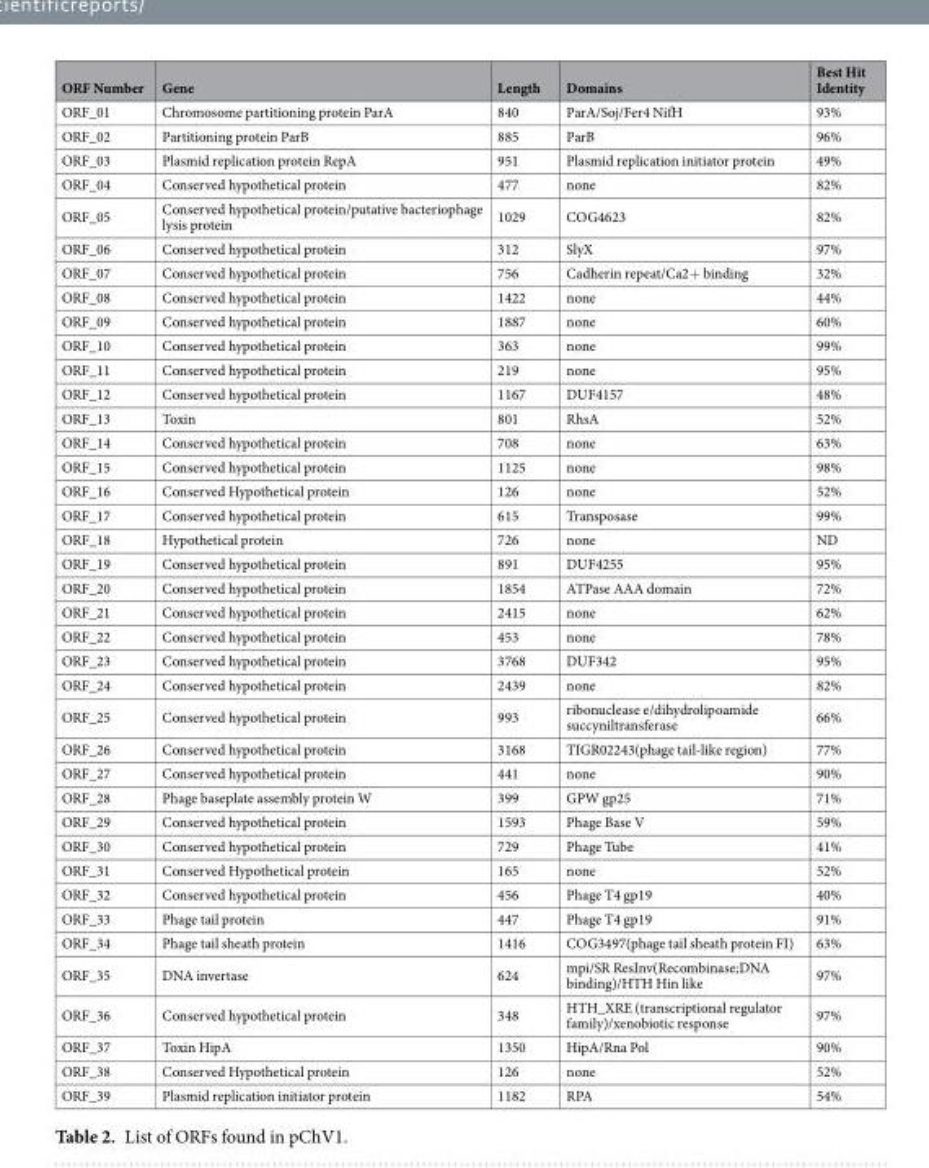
<table><thead><tr><td>ORF Number</td><td>Gene</td><td>Length</td><td>Domains</td><td>Best Hit Identity</td></tr></thead><tbody><tr><td>ORF_01</td><td>Chromosome partitioning protein ParA</td><td>840</td><td>ParA/Soj/Fer4 NifH</td><td>93%</td></tr><tr><td>ORF_02</td><td>Partitioning protein ParB</td><td>885</td><td>ParB</td><td>96%</td></tr><tr><td>ORF_03</td><td>Plasmid replication protein RepA</td><td>951</td><td>Plasmid replication initiator protein</td><td>49%</td></tr><tr><td>ORF_04</td><td>Conserved hypothetical protein</td><td>477</td><td>none</td><td>82%</td></tr><tr><td>ORF_05</td><td>Conserved hypothetical protein/putative bacteriophage lysis protein</td><td>1029</td><td>COG4623</td><td>82%</td></tr><tr><td>ORF_06</td><td>Conserved hypothetical protein</td><td>312</td><td>SlyX</td><td>97%</td></tr><tr><td>ORF_07</td><td>Conserved hypothetical protein</td><td>756</td><td>Cadherin repeat/Ca2+ binding</td><td>32%</td></tr><tr><td>ORF_08</td><td>Conserved hypothetical protein</td><td>1422</td><td>none</td><td>44%</td></tr><tr><td>ORF_09</td><td>Conserved hypothetical protein</td><td>1887</td><td>none</td><td>60%</td></tr><tr><td>ORF_10</td><td>Conserved hypothetical protein</td><td>363</td><td>none</td><td>99%</td></tr><tr><td>ORF_11</td><td>Conserved hypothetical protein</td><td>219</td><td>none</td><td>95%</td></tr><tr><td>ORF_12</td><td>Conserved hypothetical protein</td><td>1167</td><td>DUF4157</td><td>48%</td></tr><tr><td>ORF_13</td><td>Toxin</td><td>801</td><td>RhsA</td><td>52%</td></tr><tr><td>ORF_14</td><td>Conserved hypothetical protein</td><td>708</td><td>none</td><td>63%</td></tr><tr><td>ORF_15</td><td>Conserved hypothetical protein</td><td>1125</td><td>none</td><td>98%</td></tr><tr><td>ORF_16</td><td>Conserved Hypothetical protein</td><td>126</td><td>none</td><td>52%</td></tr><tr><td>ORF_17</td><td>Conserved hypothetical protein</td><td>615</td><td>Transposase</td><td>99%</td></tr><tr><td>ORF_18</td><td>Hypothetical protein</td><td>726</td><td>none</td><td>ND</td></tr><tr><td>ORF_19</td><td>Conserved hypothetical protein</td><td>891</td><td>DUF4255</td><td>95%</td></tr><tr><td>ORF_20</td><td>Conserved hypothetical protein</td><td>1854</td><td>ATPase AAA domain</td><td>72%</td></tr><tr><td>ORF_21</td><td>Conserved hypothetical protein</td><td>2415</td><td>none</td><td>62%</td></tr><tr><td>ORF_22</td><td>Conserved hypothetical protein</td><td>453</td><td>none</td><td>78%</td></tr><tr><td>ORF_23</td><td>Conserved hypothetical protein</td><td>3768</td><td>DUF342</td><td>95%</td></tr><tr><td>ORF_24</td><td>Conserved hypothetical protein</td><td>2439</td><td>none</td><td>82%</td></tr><tr><td>ORF_25</td><td>Conserved hypothetical protein</td><td>993</td><td>ribonuclease e/dihydrolipoamide succyniltransferase</td><td>66%</td></tr><tr><td>ORF_26</td><td>Conserved hypothetical protein</td><td>3168</td><td>TIGR02243(phage tail-like region)</td><td>77%</td></tr><tr><td>ORF_27</td><td>Conserved hypothetical protein</td><td>441</td><td>none</td><td>90%</td></tr><tr><td>ORF_28</td><td>Phage baseplate assembly protein W</td><td>399</td><td>GPW gp25</td><td>71%</td></tr><tr><td>ORF_29</td><td>Conserved hypothetical protein</td><td>1593</td><td>Phage Base V</td><td>59%</td></tr><tr><td>ORF_30</td><td>Conserved hypothetical protein</td><td>729</td><td>Phage Tube</td><td>41%</td></tr><tr><td>ORF_31</td><td>Conserved Hypothetical protein</td><td>165</td><td>none</td><td>52%</td></tr><tr><td>ORF_32</td><td>Conserved hypothetical protein</td><td>456</td><td>Phage T4 gp19</td><td>40%</td></tr><tr><td>ORF_33</td><td>Phage tail protein</td><td>447</td><td>Phage T4 gp19</td><td>91%</td></tr><tr><td>ORF_34</td><td>Phage tail sheath protein</td><td>1416</td><td>COG3497(phage tail sheath protein FI)</td><td>63%</td></tr><tr><td>ORF_35</td><td>DNA invertase</td><td>624</td><td>mpi/SR ResInv(Recombinase;DNA binding)/HTH Hin like</td><td>97%</td></tr><tr><td>ORF_36</td><td>Conserved hypothetical protein</td><td>348</td><td>HTH_XRE (transcriptional regulator family)/xenobiotic response</td><td>97%</td></tr><tr><td>ORF_37</td><td>Toxin HipA</td><td>1350</td><td>HipA/Rna Pol</td><td>90%</td></tr><tr><td>ORF_38</td><td>Conserved Hypothetical protein</td><td>126</td><td>none</td><td>52%</td></tr><tr><td>ORF_39</td><td>Plasmid replication initiator protein</td><td>1182</td><td>RPA</td><td>54%</td></tr></tbody></table>